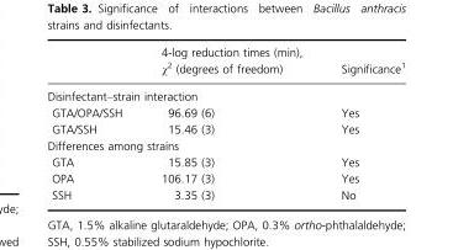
<table><thead><tr><td></td><td>4-log reduction times (min), χ<sup>2</sup> (degrees of freedom)</td><td>Significance<sup>1</sup></td></tr></thead><tbody><tr><td colspan="3">Disinfectant–strain interaction</td></tr><tr><td>GTA/OPA/SSH</td><td>96.69 (6)</td><td>Yes</td></tr><tr><td>GTA/SSH</td><td>15.46 (3)</td><td>Yes</td></tr><tr><td colspan="3">Differences among strains</td></tr><tr><td>GTA</td><td>15.85 (3)</td><td>Yes</td></tr><tr><td>OPA</td><td>106.17 (3)</td><td>Yes</td></tr><tr><td>SSH</td><td>3.35 (3)</td><td>No</td></tr></tbody></table>